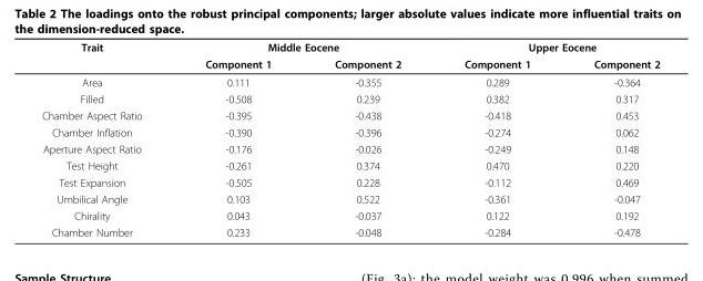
<table><thead><tr><td rowspan="2">Trait</td><td colspan="2">Middle Eocene</td><td colspan="2">Upper Eocene</td></tr><tr><td>Component 1</td><td>Component 2</td><td>Component 1</td><td>Component 2</td></tr></thead><tbody><tr><td>Area</td><td>0.111</td><td>-0.355</td><td>0.289</td><td>-0.364</td></tr><tr><td>Filled</td><td>-0.508</td><td>0.239</td><td>0.382</td><td>0.317</td></tr><tr><td>Chamber Aspect Ratio</td><td>-0.395</td><td>-0.438</td><td>-0.418</td><td>0.453</td></tr><tr><td>Chamber Inflation</td><td>-0.390</td><td>-0.396</td><td>-0.274</td><td>0.062</td></tr><tr><td>Aperture Aspect Ratio</td><td>-0.176</td><td>-0.026</td><td>-0.249</td><td>0.148</td></tr><tr><td>Test Height</td><td>-0.261</td><td>0.374</td><td>0.470</td><td>0.220</td></tr><tr><td>Test Expansion</td><td>-0.505</td><td>0.228</td><td>-0.112</td><td>0.469</td></tr><tr><td>Umbilical Angle</td><td>0.103</td><td>0.522</td><td>-0.361</td><td>-0.047</td></tr><tr><td>Chirality</td><td>0.043</td><td>-0.037</td><td>0.122</td><td>0.192</td></tr><tr><td>Chamber Number</td><td>0.233</td><td>-0.048</td><td>-0.284</td><td>-0.478</td></tr></tbody></table>